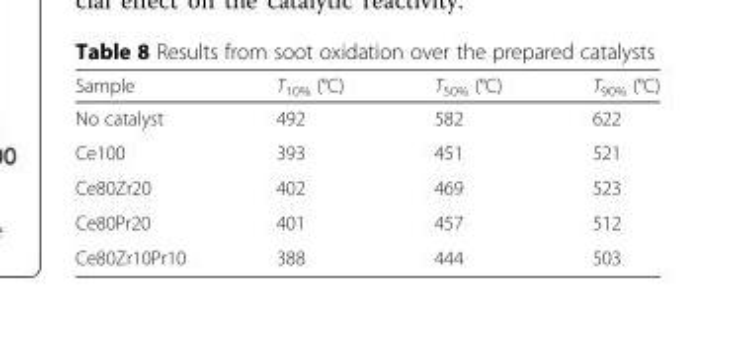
<table><thead><tr><td>Sample</td><td>T<sub>10%</sub> (°C)</td><td>T<sub>50%</sub> (°C)</td><td>T<sub>90%</sub> (°C)</td></tr></thead><tbody><tr><td>No catalyst</td><td>492</td><td>582</td><td>622</td></tr><tr><td>Ce100</td><td>393</td><td>451</td><td>521</td></tr><tr><td>Ce80Zr20</td><td>402</td><td>469</td><td>523</td></tr><tr><td>Ce80Pr20</td><td>401</td><td>457</td><td>512</td></tr><tr><td>Ce80Zr10Pr10</td><td>388</td><td>444</td><td>503</td></tr></tbody></table>